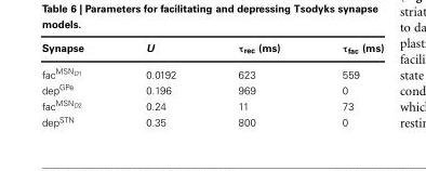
<table><thead><tr><td>Synapse</td><td>U</td><td>τ<sub>rec</sub> (ms)</td><td>τ<sub>fac</sub> (ms)</td></tr></thead><tbody><tr><td>fac<sup>MSN<sub>D1</sub></sup></td><td>0.0192</td><td>623</td><td>559</td></tr><tr><td>dep<sup>GPe</sup></td><td>0.196</td><td>969</td><td>0</td></tr><tr><td>fac<sup>MSN<sub>D2</sub></sup></td><td>0.24</td><td>11</td><td>73</td></tr><tr><td>dep<sup>STN</sup></td><td>0.35</td><td>800</td><td>0</td></tr></tbody></table>